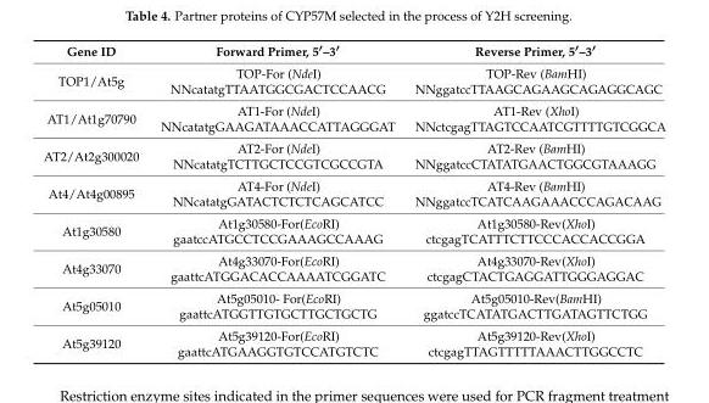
<table><thead><tr><td>Gene ID</td><td>Forward Primer, 5′–3′</td><td>Reverse Primer, 5′–3′</td></tr></thead><tbody><tr><td>TOP1/At5g</td><td>TOP-For (NdeI) NNcatatgTTAATGGCGACTCCAACG</td><td>TOP-Rev (BamHI) NNggatccTTAAGCAGAAGCAGAGGCAGC</td></tr><tr><td>AT1/At1g70790</td><td>AT1-For (NdeI) NNcatatgGAAGATAAACCATTAGGGAT</td><td>AT1-Rev (XhoI) NNctcgagTTAGTCCAATCGTTTTGTCGGCA</td></tr><tr><td>AT2/At2g300020</td><td>AT2-For (NdeI) NNcatatgTCTTGCTCCGTCGCCGTA</td><td>AT2-Rev (BamHI) NNggatccCTATATGAACTGGCGTAAAGG</td></tr><tr><td>At4/At4g00895</td><td>AT4-For (NdeI) NNcatatgGATACTCTCTCAGCATCC</td><td>AT4-Rev (BamHI) NNggatccTCATCAAGAAACCCAGACAAG</td></tr><tr><td>At1g30580</td><td>At1g30580-For(EcoRI) gaatccATGCCTCCGAAAGCCAAAG</td><td>At1g30580-Rev(XhoI) ctcgagTCATTTCTTCCCACCACCGGA</td></tr><tr><td>At4g33070</td><td>At4g33070-For(EcoRI) gaattcATGGACACCAAAATCGGATC</td><td>At4g33070-Rev(XhoI) ctcgagCTACTGAGGATTGGGAGGAC</td></tr><tr><td>At5g05010</td><td>At5g05010- For(EcoRI) gaattcATGGTTGTGCTTGCTGCTG</td><td>At5g05010-Rev(BamHI) ggatccTCATATGACTTGATAGTTCTGG</td></tr><tr><td>At5g39120</td><td>At5g39120-For(EcoRI) gaattcATGAAGGTGTCCATGTCTC</td><td>At5g39120-Rev(XhoI) ctcgagTTAGTTTTTAAACTTGGCCTC</td></tr></tbody></table>